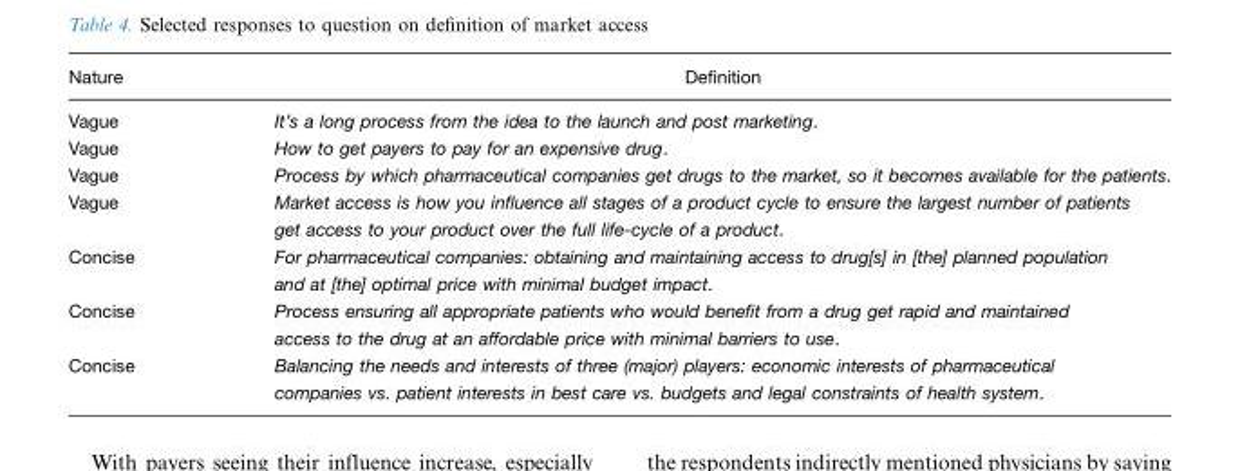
<table><thead><tr><td>Nature</td><td>Definition</td></tr></thead><tbody><tr><td>Vague</td><td>It’s a long process from the idea to the launch and post marketing.</td></tr><tr><td>Vague</td><td>How to get payers to pay for an expensive drug.</td></tr><tr><td>Vague</td><td>Process by which pharmaceutical companies get drugs to the market, so it becomes available for the patients.</td></tr><tr><td>Vague</td><td>Market access is how you influence all stages of a product cycle to ensure the largest number of patients get access to your product over the full life-cycle of a product.</td></tr><tr><td>Concise</td><td>For pharmaceutical companies: obtaining and maintaining access to drug[s] in [the] planned population and at [the] optimal price with minimal budget impact.</td></tr><tr><td>Concise</td><td>Process ensuring all appropriate patients who would benefit from a drug get rapid and maintained access to the drug at an affordable price with minimal barriers to use.</td></tr><tr><td>Concise</td><td>Balancing the needs and interests of three (major) players: economic interests of pharmaceutical companies vs. patient interests in best care vs. budgets and legal constraints of health system.</td></tr></tbody></table>